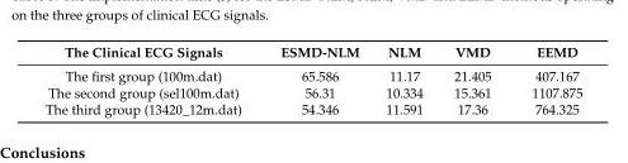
<table><thead><tr><td>The Clinical ECG Signals</td><td>ESMD-NLM</td><td>NLM</td><td>VMD</td><td>EEMD</td></tr></thead><tbody><tr><td>The first group (100m.dat)</td><td>65.586</td><td>11.17</td><td>21.405</td><td>407.167</td></tr><tr><td>The second group (sel100m.dat)</td><td>56.31</td><td>10.334</td><td>15.361</td><td>1107.875</td></tr><tr><td>The third group (13420_12m.dat)</td><td>54.346</td><td>11.591</td><td>17.36</td><td>764.325</td></tr></tbody></table>